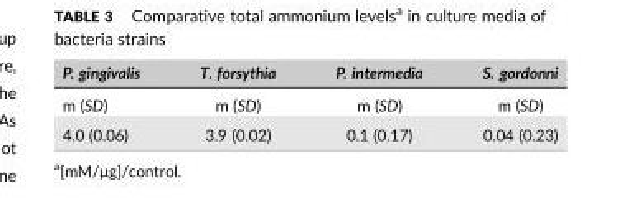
<table><thead><tr><td>P. gingivalis</td><td>T. forsythia</td><td>P. intermedia</td><td>S. gordonni</td></tr></thead><tbody><tr><td>m (SD)</td><td>m (SD)</td><td>m (SD)</td><td>m (SD)</td></tr><tr><td>4.0 (0.06)</td><td>3.9 (0.02)</td><td>0.1 (0.17)</td><td>0.04 (0.23)</td></tr></tbody></table>